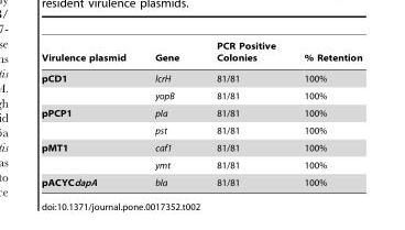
<table><thead><tr><td>Virulence plasmid</td><td>Gene</td><td>PCR Positive Colonies</td><td>% Retention</td></tr></thead><tbody><tr><td rowspan="2">pCD1</td><td>lcrH</td><td>81/81</td><td>100%</td></tr><tr><td>yopB</td><td>81/81</td><td>100%</td></tr><tr><td rowspan="2">pPCP1</td><td>pla</td><td>81/81</td><td>100%</td></tr><tr><td>pst</td><td>81/81</td><td>100%</td></tr><tr><td rowspan="2">pMT1</td><td>caf1</td><td>81/81</td><td>100%</td></tr><tr><td>ymt</td><td>81/81</td><td>100%</td></tr><tr><td>pACYCdapA</td><td>bla</td><td>81/81</td><td>100%</td></tr></tbody></table>